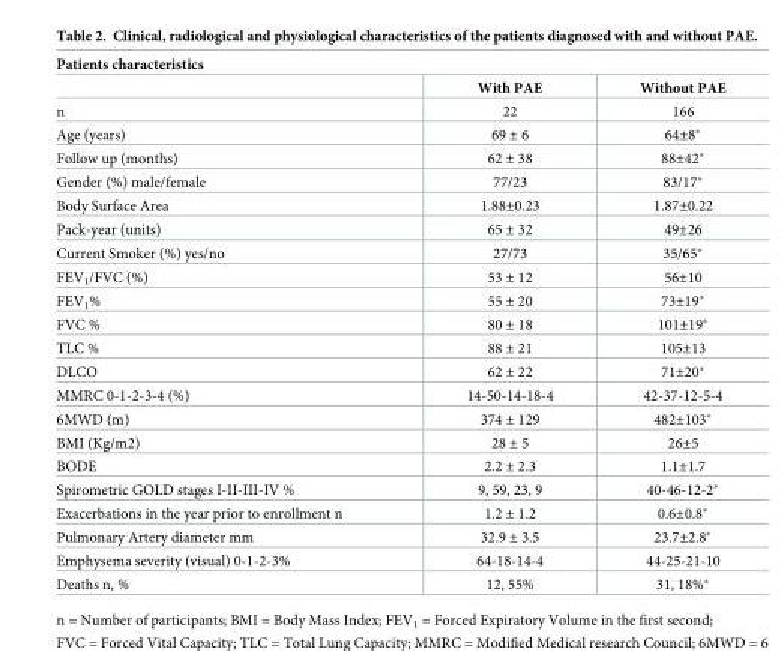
<table><thead><tr><td colspan="3">Patients characteristics</td></tr><tr><td></td><td>With PAE</td><td>Without PAE</td></tr></thead><tbody><tr><td>n</td><td>22</td><td>166</td></tr><tr><td>Age (years)</td><td>69 ± 6</td><td>64±8*</td></tr><tr><td>Follow up (months)</td><td>62 ± 38</td><td>88±42*</td></tr><tr><td>Gender (%) male/female</td><td>77/23</td><td>83/17*</td></tr><tr><td>Body Surface Area</td><td>1.88±0.23</td><td>1.87±0.22</td></tr><tr><td>Pack-year (units)</td><td>65 ± 32</td><td>49±26</td></tr><tr><td>Current Smoker (%) yes/no</td><td>27/73</td><td>35/65*</td></tr><tr><td>FEV<sub>1</sub>/FVC (%)</td><td>53 ± 12</td><td>56±10</td></tr><tr><td>FEV<sub>1</sub>%</td><td>55 ± 20</td><td>73±19*</td></tr><tr><td>FVC %</td><td>80 ± 18</td><td>101±19*</td></tr><tr><td>TLC %</td><td>88 ± 21</td><td>105±13</td></tr><tr><td>DLCO</td><td>62 ± 22</td><td>71±20*</td></tr><tr><td>MMRC 0-1-2-3-4 (%)</td><td>14-50-14-18-4</td><td>42-37-12-5-4</td></tr><tr><td>6MWD (m)</td><td>374 ± 129</td><td>482±103*</td></tr><tr><td>BMI (Kg/m2)</td><td>28 ± 5</td><td>26±5</td></tr><tr><td>BODE</td><td>2.2 ± 2.3</td><td>1.1±1.7</td></tr><tr><td>Spirometric GOLD stages I-II-III-IV %</td><td>9, 59, 23, 9</td><td>40-46-12-2*</td></tr><tr><td>Exacerbations in the year prior to enrollment n</td><td>1.2 ± 1.2</td><td>0.6±0.8*</td></tr><tr><td>Pulmonary Artery diameter mm</td><td>32.9 ± 3.5</td><td>23.7±2.8*</td></tr><tr><td>Emphysema severity (visual) 0-1-2-3%</td><td>64-18-14-4</td><td>44-25-21-10</td></tr><tr><td>Deaths n, %</td><td>12, 55%</td><td>31, 18%*</td></tr></tbody></table>